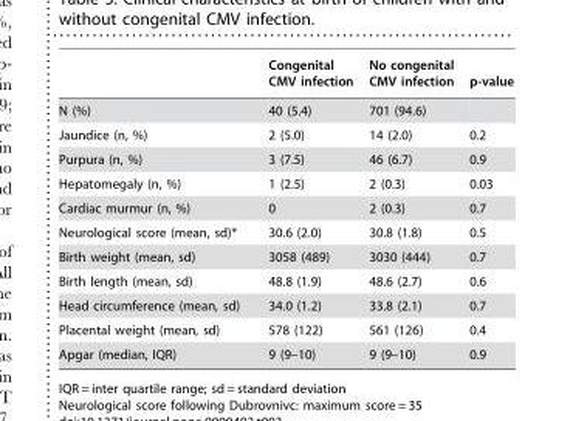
<table><thead><tr><td></td><td>Congenital CMV infection</td><td>No congenital CMV infection</td><td>p-value</td></tr></thead><tbody><tr><td>N (%)</td><td>40 (5.4)</td><td>701 (94.6)</td><td></td></tr><tr><td>Jaundice (n, %)</td><td>2 (5.0)</td><td>14 (2.0)</td><td>0.2</td></tr><tr><td>Purpura (n, %)</td><td>3 (7.5)</td><td>46 (6.7)</td><td>0.9</td></tr><tr><td>Hepatomegaly (n, %)</td><td>1 (2.5)</td><td>2 (0.3)</td><td>0.03</td></tr><tr><td>Cardiac murmur (n, %)</td><td>0</td><td>2 (0.3)</td><td>0.7</td></tr><tr><td>Neurological score (mean, sd)*</td><td>30.6 (2.0)</td><td>30.8 (1.8)</td><td>0.5</td></tr><tr><td>Birth weight (mean, sd)</td><td>3058 (489)</td><td>3030 (444)</td><td>0.7</td></tr><tr><td>Birth length (mean, sd)</td><td>48.8 (1.9)</td><td>48.6 (2.7)</td><td>0.6</td></tr><tr><td>Head circumference (mean, sd)</td><td>34.0 (1.2)</td><td>33.8 (2.1)</td><td>0.7</td></tr><tr><td>Placental weight (mean, sd)</td><td>578 (122)</td><td>561 (126)</td><td>0.4</td></tr><tr><td>Apgar (median, IQR)</td><td>9 (9–10)</td><td>9 (9–10)</td><td>0.9</td></tr></tbody></table>